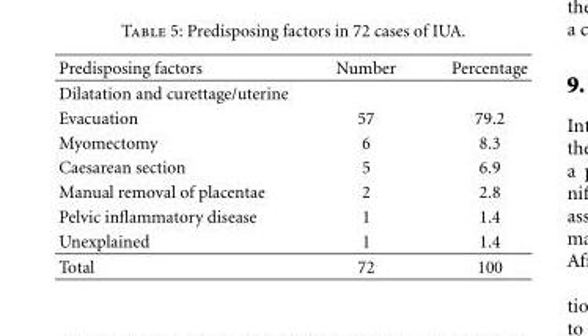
<table><thead><tr><td>Predisposing factors</td><td>Number</td><td>Percentage</td></tr></thead><tbody><tr><td colspan="3">Dilatation and curettage/uterine</td></tr><tr><td>Evacuation</td><td>57</td><td>79.2</td></tr><tr><td>Myomectomy</td><td>6</td><td>8.3</td></tr><tr><td>Caesarean section</td><td>5</td><td>6.9</td></tr><tr><td>Manual removal of placentae</td><td>2</td><td>2.8</td></tr><tr><td>Pelvic inflammatory disease</td><td>1</td><td>1.4</td></tr><tr><td>Unexplained</td><td>1</td><td>1.4</td></tr><tr><td>Total</td><td>72</td><td>100</td></tr></tbody></table>